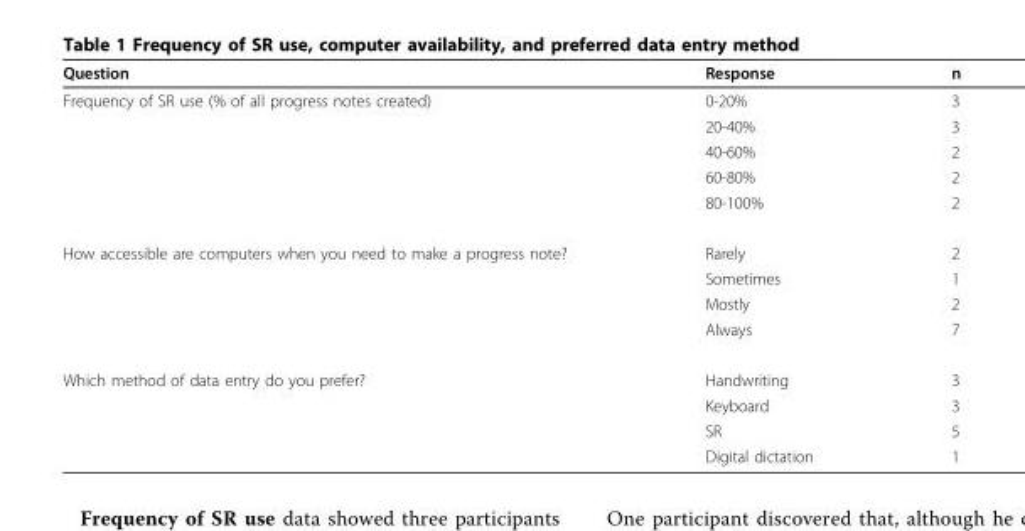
<table><thead><tr><td>Question</td><td>Response</td><td>n</td></tr></thead><tbody><tr><td rowspan="5">Frequency of SR use (% of all progress notes created)</td><td>0-20%</td><td>3</td></tr><tr><td>20-40%</td><td>3</td></tr><tr><td>40-60%</td><td>2</td></tr><tr><td>60-80%</td><td>2</td></tr><tr><td>80-100%</td><td>2</td></tr><tr><td rowspan="4">How accessible are computers when you need to make a progress note?</td><td>Rarely</td><td>2</td></tr><tr><td>Sometimes</td><td>1</td></tr><tr><td>Mostly</td><td>2</td></tr><tr><td>Always</td><td>7</td></tr><tr><td rowspan="4">Which method of data entry do you prefer?</td><td>Handwriting</td><td>3</td></tr><tr><td>Keyboard</td><td>3</td></tr><tr><td>SR</td><td>5</td></tr><tr><td>Digital dictation</td><td>1</td></tr></tbody></table>